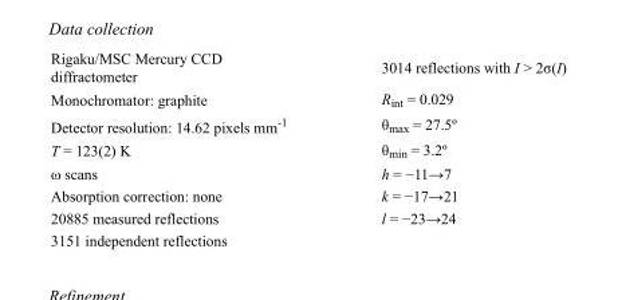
<table><tbody><tr><td>Rigaku/MSC Mercury CCD diffractometer</td><td>3014 reflections with I &gt; 2σ(I)</td></tr><tr><td>Monochromator: graphite</td><td>R<sub>int</sub> = 0.029</td></tr><tr><td>Detector resolution: 14.62 pixels mm<sup>-1</sup></td><td>θ<sub>max</sub> = 27.5º</td></tr><tr><td>T = 123(2) K</td><td>θ<sub>min</sub> = 3.2º</td></tr><tr><td>ω scans</td><td>h = −11→7</td></tr><tr><td>Absorption correction: none</td><td>k = −17→21</td></tr><tr><td>20885 measured reflections</td><td>l = −23→24</td></tr><tr><td>3151 independent reflections</td><td></td></tr></tbody></table>